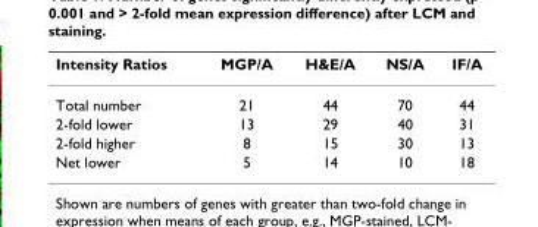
<table><thead><tr><td>Intensity Ratios</td><td>MGP/A</td><td>H&amp;E/A</td><td>NS/A</td><td>IF/A</td></tr></thead><tbody><tr><td>Total number</td><td>21</td><td>44</td><td>70</td><td>44</td></tr><tr><td>2-fold lower</td><td>13</td><td>29</td><td>40</td><td>31</td></tr><tr><td>2-fold higher</td><td>8</td><td>15</td><td>30</td><td>13</td></tr><tr><td>Net lower</td><td>5</td><td>14</td><td>10</td><td>18</td></tr></tbody></table>